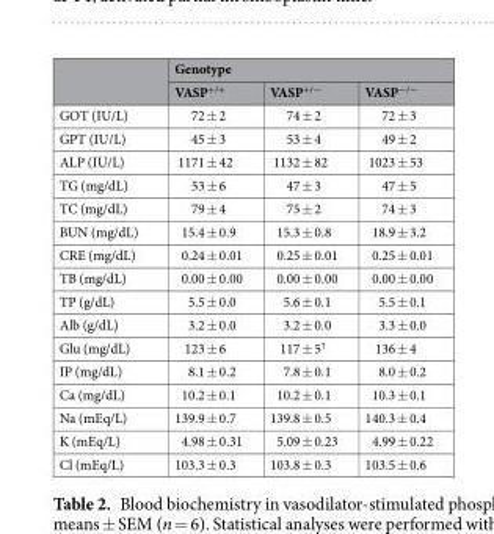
<table><thead><tr><td rowspan="2"></td><td colspan="3">Genotype</td></tr><tr><td>VASP<sup>+/+</sup></td><td>VASP<sup>+/−</sup></td><td>VASP<sup>−/−</sup></td></tr></thead><tbody><tr><td>GOT (IU/L)</td><td>72 ± 2</td><td>74 ± 2</td><td>72 ± 3</td></tr><tr><td>GPT (IU/L)</td><td>45 ± 3</td><td>53 ± 4</td><td>49 ± 2</td></tr><tr><td>ALP (IU/L)</td><td>1171 ± 42</td><td>1132 ± 82</td><td>1023 ± 53</td></tr><tr><td>TG (mg/dL)</td><td>53 ± 6</td><td>47 ± 3</td><td>47 ± 5</td></tr><tr><td>TC (mg/dL)</td><td>79 ± 4</td><td>75 ± 2</td><td>74 ± 3</td></tr><tr><td>BUN (mg/dL)</td><td>15.4 ± 0.9</td><td>15.3 ± 0.8</td><td>18.9 ± 3.2</td></tr><tr><td>CRE (mg/dL)</td><td>0.24 ± 0.01</td><td>0.25 ± 0.01</td><td>0.25 ± 0.01</td></tr><tr><td>TB (mg/dL)</td><td>0.00 ± 0.00</td><td>0.00 ± 0.00</td><td>0.00 ± 0.00</td></tr><tr><td>TP (g/dL)</td><td>5.5 ± 0.0</td><td>5.6 ± 0.1</td><td>5.5 ± 0.1</td></tr><tr><td>Alb (g/dL)</td><td>3.2 ± 0.0</td><td>3.2 ± 0.0</td><td>3.3 ± 0.0</td></tr><tr><td>Glu (mg/dL)</td><td>123 ± 6</td><td>117 ± 5<sup>†</sup></td><td>136 ± 4</td></tr><tr><td>IP (mg/dL)</td><td>8.1 ± 0.2</td><td>7.8 ± 0.1</td><td>8.0 ± 0.2</td></tr><tr><td>Ca (mg/dL)</td><td>10.2 ± 0.1</td><td>10.2 ± 0.1</td><td>10.3 ± 0.1</td></tr><tr><td>Na (mEq/L)</td><td>139.9 ± 0.7</td><td>139.8 ± 0.5</td><td>140.3 ± 0.4</td></tr><tr><td>K (mEq/L)</td><td>4.98 ± 0.31</td><td>5.09 ± 0.23</td><td>4.99 ± 0.22</td></tr><tr><td>Cl (mEq/L)</td><td>103.3 ± 0.3</td><td>103.8 ± 0.3</td><td>103.5 ± 0.6</td></tr></tbody></table>